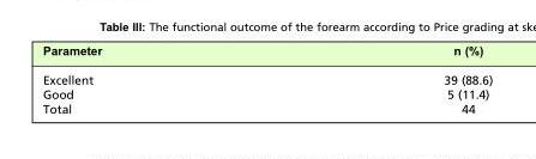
<table><thead><tr><td>Parameter</td><td>n (%)</td></tr></thead><tbody><tr><td>Excellent</td><td>39 (88.6)</td></tr><tr><td>Good</td><td>5 (11.4)</td></tr><tr><td>Total</td><td>44</td></tr></tbody></table>